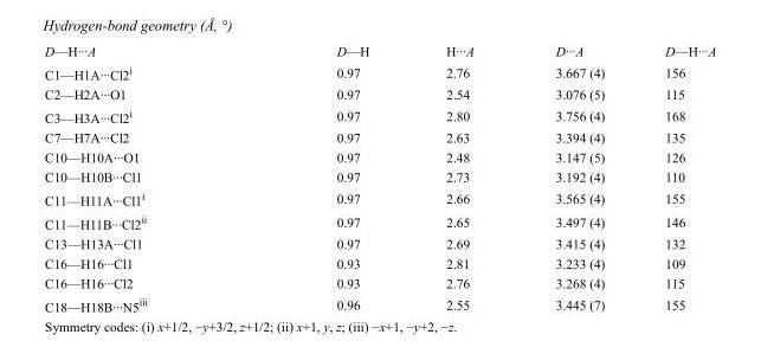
<table><tbody><tr><td>D—H···A</td><td>D—H</td><td>H···A</td><td>D···A</td><td>D—H···A</td></tr><tr><td>C1—H1A···Cl2<sup>i</sup></td><td>0.97</td><td>2.76</td><td>3.667 (4)</td><td>156</td></tr><tr><td>C2—H2A···O1</td><td>0.97</td><td>2.54</td><td>3.076 (5)</td><td>115</td></tr><tr><td>C3—H3A···Cl2<sup>i</sup></td><td>0.97</td><td>2.80</td><td>3.756 (4)</td><td>168</td></tr><tr><td>C7—H7A···Cl2</td><td>0.97</td><td>2.63</td><td>3.394 (4)</td><td>135</td></tr><tr><td>C10—H10A···O1</td><td>0.97</td><td>2.48</td><td>3.147 (5)</td><td>126</td></tr><tr><td>C10—H10B···Cl1</td><td>0.97</td><td>2.73</td><td>3.192 (4)</td><td>110</td></tr><tr><td>C11—H11A···Cl1<sup>i</sup></td><td>0.97</td><td>2.66</td><td>3.565 (4)</td><td>155</td></tr><tr><td>C11—H11B···Cl2<sup>ii</sup></td><td>0.97</td><td>2.65</td><td>3.497 (4)</td><td>146</td></tr><tr><td>C13—H13A···Cl1</td><td>0.97</td><td>2.69</td><td>3.415 (4)</td><td>132</td></tr><tr><td>C16—H16···Cl1</td><td>0.93</td><td>2.81</td><td>3.233 (4)</td><td>109</td></tr><tr><td>C16—H16···Cl2</td><td>0.93</td><td>2.76</td><td>3.268 (4)</td><td>115</td></tr><tr><td>C18—H18B···N5<sup>iii</sup></td><td>0.96</td><td>2.55</td><td>3.445 (7)</td><td>155</td></tr></tbody></table>